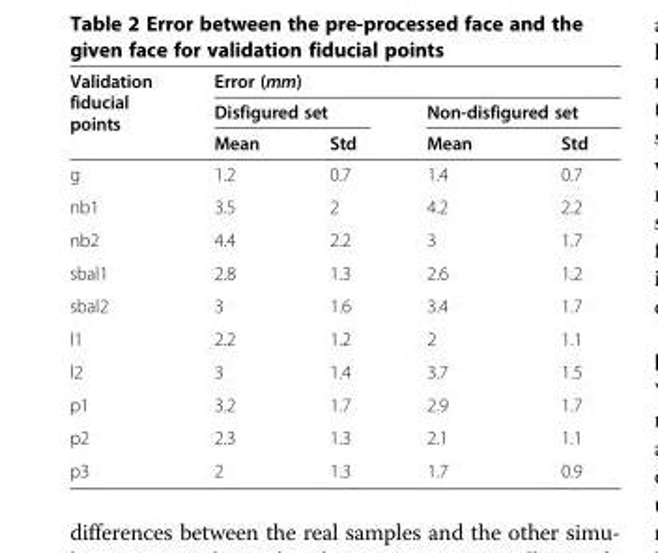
<table><thead><tr><td rowspan="3">Validation fiducial points</td><td colspan="4">Error (mm)</td></tr><tr><td colspan="2">Disfigured set</td><td colspan="2">Non-disfigured set</td></tr><tr><td>Mean</td><td>Std</td><td>Mean</td><td>Std</td></tr></thead><tbody><tr><td>g</td><td>1.2</td><td>0.7</td><td>1.4</td><td>0.7</td></tr><tr><td>nb1</td><td>3.5</td><td>2</td><td>4.2</td><td>2.2</td></tr><tr><td>nb2</td><td>4.4</td><td>2.2</td><td>3</td><td>1.7</td></tr><tr><td>sbal1</td><td>2.8</td><td>1.3</td><td>2.6</td><td>1.2</td></tr><tr><td>sbal2</td><td>3</td><td>1.6</td><td>3.4</td><td>1.7</td></tr><tr><td>l1</td><td>2.2</td><td>1.2</td><td>2</td><td>1.1</td></tr><tr><td>l2</td><td>3</td><td>1.4</td><td>3.7</td><td>1.5</td></tr><tr><td>p1</td><td>3.2</td><td>1.7</td><td>2.9</td><td>1.7</td></tr><tr><td>p2</td><td>2.3</td><td>1.3</td><td>2.1</td><td>1.1</td></tr><tr><td>p3</td><td>2</td><td>1.3</td><td>1.7</td><td>0.9</td></tr></tbody></table>